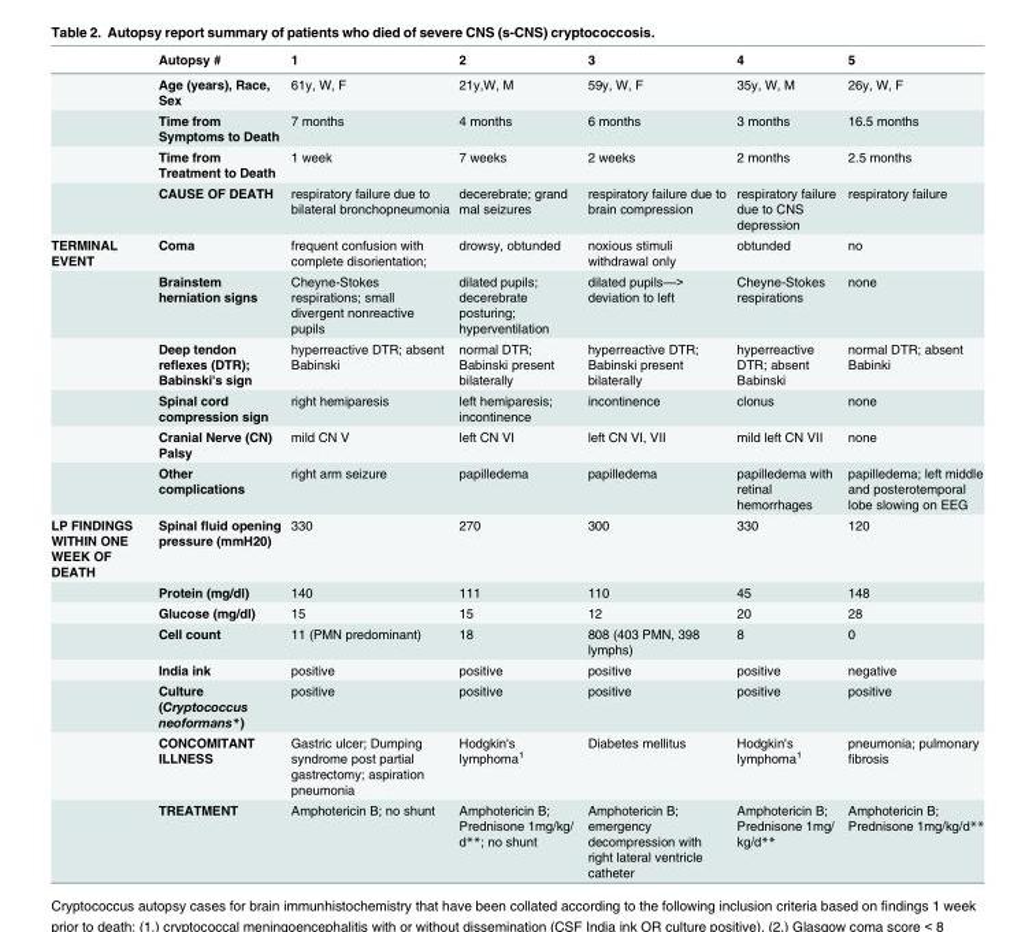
<table><thead><tr><td></td><td>Autopsy #</td><td>1</td><td>2</td><td>3</td><td>4</td><td>5</td></tr></thead><tbody><tr><td></td><td>Age (years), Race, Sex</td><td>61y, W, F</td><td>21y,W, M</td><td>59y, W, F</td><td>35y, W, M</td><td>26y, W, F</td></tr><tr><td></td><td>Time from Symptoms to Death</td><td>7 months</td><td>4 months</td><td>6 months</td><td>3 months</td><td>16.5 months</td></tr><tr><td></td><td>Time from Treatment to Death</td><td>1 week</td><td>7 weeks</td><td>2 weeks</td><td>2 months</td><td>2.5 months</td></tr><tr><td></td><td>CAUSE OF DEATH</td><td>respiratory failure due to bilateral bronchopneumonia</td><td>decerebrate; grand mal seizures</td><td>respiratory failure due to brain compression</td><td>respiratory failure due to CNS depression</td><td>respiratory failure</td></tr><tr><td rowspan="6">TERMINAL EVENT</td><td>Coma</td><td>frequent confusion with complete disorientation;</td><td>drowsy, obtunded</td><td>noxious stimuli withdrawal only</td><td>obtunded</td><td>no</td></tr><tr><td>Brainstem herniation signs</td><td>Cheyne-Stokes respirations; small divergent nonreactive pupils</td><td>dilated pupils; decerebrate posturing; hyperventilation</td><td>dilated pupils—&gt; deviation to left</td><td>Cheyne-Stokes respirations</td><td>none</td></tr><tr><td>Deep tendon reflexes (DTR); Babinski&#x27;s sign</td><td>hyperreactive DTR; absent Babinski</td><td>normal DTR; Babinski present bilaterally</td><td>hyperreactive DTR; Babinski present bilaterally</td><td>hyperreactive DTR; absent Babinski</td><td>normal DTR; absent Babinki</td></tr><tr><td>Spinal cord compression sign</td><td>right hemiparesis</td><td>left hemiparesis; incontinence</td><td>incontinence</td><td>clonus</td><td>none</td></tr><tr><td>Cranial Nerve (CN) Palsy</td><td>mild CN V</td><td>left CN VI</td><td>left CN VI, VII</td><td>mild left CN VII</td><td>none</td></tr><tr><td>Other complications</td><td>right arm seizure</td><td>papilledema</td><td>papilledema</td><td>papilledema with retinal hemorrhages</td><td>papilledema; left middle and posterotemporal lobe slowing on EEG</td></tr><tr><td rowspan="8">LP FINDINGS WITHIN ONE WEEK OF DEATH</td><td>Spinal fluid opening pressure (mmH20)</td><td>330</td><td>270</td><td>300</td><td>330</td><td>120</td></tr><tr><td>Protein (mg/dl)</td><td>140</td><td>111</td><td>110</td><td>45</td><td>148</td></tr><tr><td>Glucose (mg/dl)</td><td>15</td><td>15</td><td>12</td><td>20</td><td>28</td></tr><tr><td>Cell count</td><td>11 (PMN predominant)</td><td>18</td><td>808 (403 PMN, 398 lymphs)</td><td>8</td><td>0</td></tr><tr><td>India ink</td><td>positive</td><td>positive</td><td>positive</td><td>positive</td><td>negative</td></tr><tr><td>Culture (Cryptococcus neoformans*)</td><td>positive</td><td>positive</td><td>positive</td><td>positive</td><td>positive</td></tr><tr><td>CONCOMITANT ILLNESS</td><td>Gastric ulcer; Dumping syndrome post partial gastrectomy; aspiration pneumonia</td><td>Hodgkin&#x27;s lymphoma<sup>1</sup></td><td>Diabetes mellitus</td><td>Hodgkin&#x27;s lymphoma<sup>1</sup></td><td>pneumonia; pulmonary fibrosis</td></tr><tr><td>TREATMENT</td><td>Amphotericin B; no shunt</td><td>Amphotericin B; Prednisone 1mg/kg/ d**; no shunt</td><td>Amphotericin B; emergency decompression with right lateral ventricle catheter</td><td>Amphotericin B; Prednisone 1mg/ kg/d**</td><td>Amphotericin B; Prednisone 1mg/kg/d**</td></tr></tbody></table>